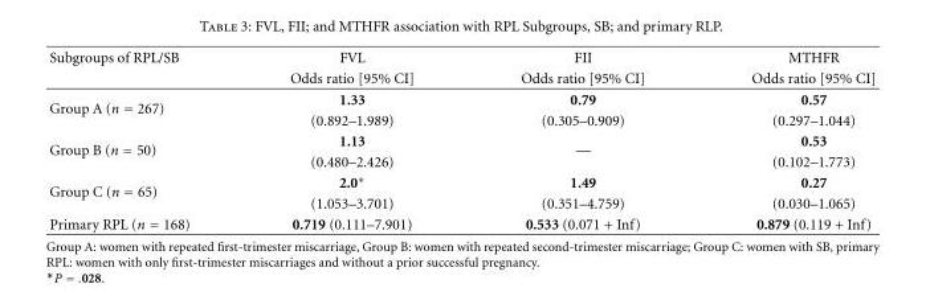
<table><thead><tr><td rowspan="2">Subgroups of RPL/SB</td><td rowspan="2">FVL Odds ratio [95% CI]</td><td rowspan="2">FII Odds ratio [95% CI]</td><td rowspan="2">MTHFR Odds ratio [95% CI]</td></tr><tr></tr></thead><tbody><tr><td rowspan="2">Group A (n = 267)</td><td>1.33</td><td>0.79</td><td>0.57</td></tr><tr><td>(0.892–1.989)</td><td>(0.305–0.909)</td><td>(0.297–1.044)</td></tr><tr><td rowspan="2">Group B (n = 50)</td><td>1.13</td><td rowspan="2">—</td><td>0.53</td></tr><tr><td>(0.480–2.426)</td><td>(0.102–1.773)</td></tr><tr><td rowspan="2">Group C (n = 65)</td><td>2.0∗</td><td>1.49</td><td>0.27</td></tr><tr><td>(1.053–3.701)</td><td>(0.351–4.759)</td><td>(0.030–1.065)</td></tr><tr><td>Primary RPL (n = 168)</td><td>0.719 (0.111–7.901)</td><td>0.533 (0.071 + Inf)</td><td>0.879 (0.119 + Inf)</td></tr></tbody></table>